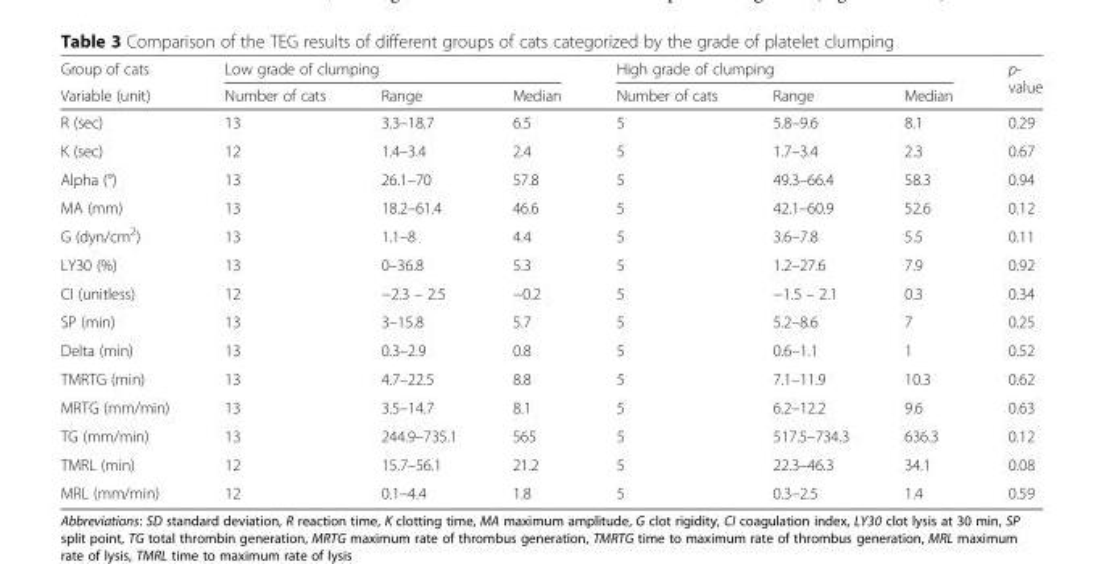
<table><thead><tr><td rowspan="2">Group of cats Variable (unit)</td><td colspan="3">Low grade of clumping</td><td colspan="3">High grade of clumping</td><td rowspan="2">p- value</td></tr><tr><td>Number of cats</td><td>Range</td><td>Median</td><td>Number of cats</td><td>Range</td><td>Median</td></tr></thead><tbody><tr><td>R (sec)</td><td>13</td><td>3.3–18.7</td><td>6.5</td><td>5</td><td>5.8–9.6</td><td>8.1</td><td>0.29</td></tr><tr><td>K (sec)</td><td>12</td><td>1.4–3.4</td><td>2.4</td><td>5</td><td>1.7–3.4</td><td>2.3</td><td>0.67</td></tr><tr><td>Alpha (°)</td><td>13</td><td>26.1–70</td><td>57.8</td><td>5</td><td>49.3–66.4</td><td>58.3</td><td>0.94</td></tr><tr><td>MA (mm)</td><td>13</td><td>18.2–61.4</td><td>46.6</td><td>5</td><td>42.1–60.9</td><td>52.6</td><td>0.12</td></tr><tr><td>G (dyn/cm<sup>2</sup>)</td><td>13</td><td>1.1–8</td><td>4.4</td><td>5</td><td>3.6–7.8</td><td>5.5</td><td>0.11</td></tr><tr><td>LY30 (%)</td><td>13</td><td>0–36.8</td><td>5.3</td><td>5</td><td>1.2–27.6</td><td>7.9</td><td>0.92</td></tr><tr><td>CI (unitless)</td><td>12</td><td>−2.3 – 2.5</td><td>−0.2</td><td>5</td><td>−1.5 – 2.1</td><td>0.3</td><td>0.34</td></tr><tr><td>SP (min)</td><td>13</td><td>3–15.8</td><td>5.7</td><td>5</td><td>5.2–8.6</td><td>7</td><td>0.25</td></tr><tr><td>Delta (min)</td><td>13</td><td>0.3–2.9</td><td>0.8</td><td>5</td><td>0.6–1.1</td><td>1</td><td>0.52</td></tr><tr><td>TMRTG (min)</td><td>13</td><td>4.7–22.5</td><td>8.8</td><td>5</td><td>7.1–11.9</td><td>10.3</td><td>0.62</td></tr><tr><td>MRTG (mm/min)</td><td>13</td><td>3.5–14.7</td><td>8.1</td><td>5</td><td>6.2–12.2</td><td>9.6</td><td>0.63</td></tr><tr><td>TG (mm/min)</td><td>13</td><td>244.9–735.1</td><td>565</td><td>5</td><td>517.5–734.3</td><td>636.3</td><td>0.12</td></tr><tr><td>TMRL (min)</td><td>12</td><td>15.7–56.1</td><td>21.2</td><td>5</td><td>22.3–46.3</td><td>34.1</td><td>0.08</td></tr><tr><td>MRL (mm/min)</td><td>12</td><td>0.1–4.4</td><td>1.8</td><td>5</td><td>0.3–2.5</td><td>1.4</td><td>0.59</td></tr></tbody></table>